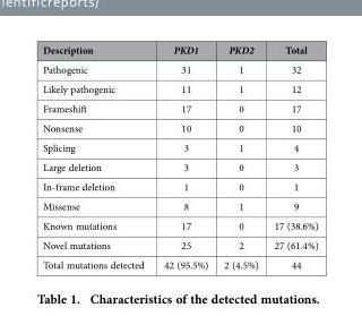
<table><thead><tr><td>Description</td><td>PKD1</td><td>PKD2</td><td>Total</td></tr></thead><tbody><tr><td>Pathogenic</td><td>31</td><td>1</td><td>32</td></tr><tr><td>Likely pathogenic</td><td>11</td><td>1</td><td>12</td></tr><tr><td>Frameshift</td><td>17</td><td>0</td><td>17</td></tr><tr><td>Nonsense</td><td>10</td><td>0</td><td>10</td></tr><tr><td>Splicing</td><td>3</td><td>1</td><td>4</td></tr><tr><td>Large deletion</td><td>3</td><td>0</td><td>3</td></tr><tr><td>In-frame deletion</td><td>1</td><td>0</td><td>1</td></tr><tr><td>Missense</td><td>8</td><td>1</td><td>9</td></tr><tr><td>Known mutations</td><td>17</td><td>0</td><td>17 (38.6%)</td></tr><tr><td>Novel mutations</td><td>25</td><td>2</td><td>27 (61.4%)</td></tr><tr><td>Total mutations detected</td><td>42 (95.5%)</td><td>2 (4.5%)</td><td>44</td></tr></tbody></table>